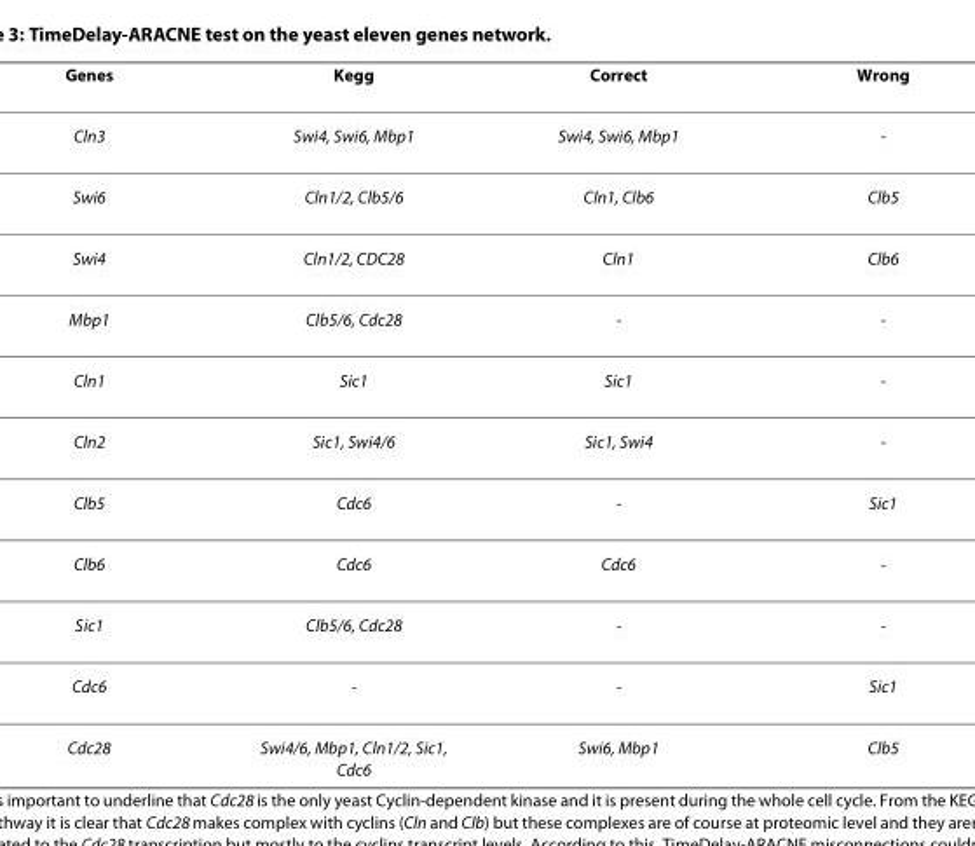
<table><thead><tr><td>Genes</td><td>Kegg</td><td>Correct</td><td>Wrong</td></tr></thead><tbody><tr><td>Cln3</td><td>Swi4, Swi6, Mbp1</td><td>Swi4, Swi6, Mbp1</td><td>-</td></tr><tr><td>Swi6</td><td>Cln1/2, Clb5/6</td><td>Cln1, Clb6</td><td>Clb5</td></tr><tr><td>Swi4</td><td>Cln1/2, CDC28</td><td>Cln1</td><td>Clb6</td></tr><tr><td>Mbp1</td><td>Clb5/6, Cdc28</td><td>-</td><td>-</td></tr><tr><td>Cln1</td><td>Sic1</td><td>Sic1</td><td>-</td></tr><tr><td>Cln2</td><td>Sic1, Swi4/6</td><td>Sic1, Swi4</td><td>-</td></tr><tr><td>Clb5</td><td>Cdc6</td><td>-</td><td>Sic1</td></tr><tr><td>Clb6</td><td>Cdc6</td><td>Cdc6</td><td>-</td></tr><tr><td>Sic1</td><td>Clb5/6, Cdc28</td><td>-</td><td>-</td></tr><tr><td>Cdc6</td><td>-</td><td>-</td><td>Sic1</td></tr><tr><td>Cdc28</td><td>Swi4/6, Mbp1, Cln1/2, Sic1, Cdc6</td><td>Swi6, Mbp1</td><td>Clb5</td></tr></tbody></table>